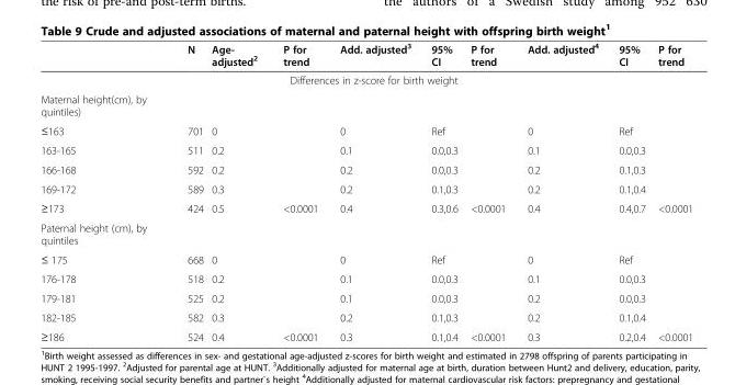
<table><thead><tr><td></td><td>N</td><td>Age- adjusted<sup>2</sup></td><td>P for trend</td><td>Add. adjusted<sup>3</sup></td><td>95% CI</td><td>P for trend</td><td>Add. adjusted<sup>4</sup></td><td>95% CI</td><td>P for trend</td></tr></thead><tbody><tr><td colspan="10">Differences in z-score for birth weight</td></tr><tr><td colspan="10">Maternal height(cm), by quintiles)</td></tr><tr><td>≤163</td><td>701</td><td>0</td><td></td><td>0</td><td>Ref</td><td></td><td>0</td><td>Ref</td><td></td></tr><tr><td>163-165</td><td>511</td><td>0.2</td><td></td><td>0.1</td><td>0.0,0.3</td><td></td><td>0.1</td><td>0.0,0.3</td><td></td></tr><tr><td>166-168</td><td>592</td><td>0.2</td><td></td><td>0.2</td><td>0.0,0.3</td><td></td><td>0.2</td><td>0.1,0.3</td><td></td></tr><tr><td>169-172</td><td>589</td><td>0.3</td><td></td><td>0.2</td><td>0.1,0.3</td><td></td><td>0.2</td><td>0.1,0.4</td><td></td></tr><tr><td>≥173</td><td>424</td><td>0.5</td><td>&lt;0.0001</td><td>0.4</td><td>0.3,0.6</td><td>&lt;0.0001</td><td>0.4</td><td>0.4,0.7</td><td>&lt;0.0001</td></tr><tr><td colspan="10">Paternal height (cm), by quintiles</td></tr><tr><td>≤ 175</td><td>668</td><td>0</td><td></td><td>0</td><td>Ref</td><td></td><td>0</td><td>Ref</td><td></td></tr><tr><td>176-178</td><td>518</td><td>0.2</td><td></td><td>0.1</td><td>0.0,0.3</td><td></td><td>0.1</td><td>0.0,0.3</td><td></td></tr><tr><td>179-181</td><td>525</td><td>0.2</td><td></td><td>0.1</td><td>0.0,0.3</td><td></td><td>0.2</td><td>0.0,0.3</td><td></td></tr><tr><td>182-185</td><td>582</td><td>0.3</td><td></td><td>0.2</td><td>0.1,0.3</td><td></td><td>0.2</td><td>0.1,0.4</td><td></td></tr><tr><td>≥186</td><td>524</td><td>0.4</td><td>&lt;0.0001</td><td>0.3</td><td>0.1,0.4</td><td>&lt;0.0001</td><td>0.3</td><td>0.2,0.4</td><td>&lt;0.0001</td></tr></tbody></table>